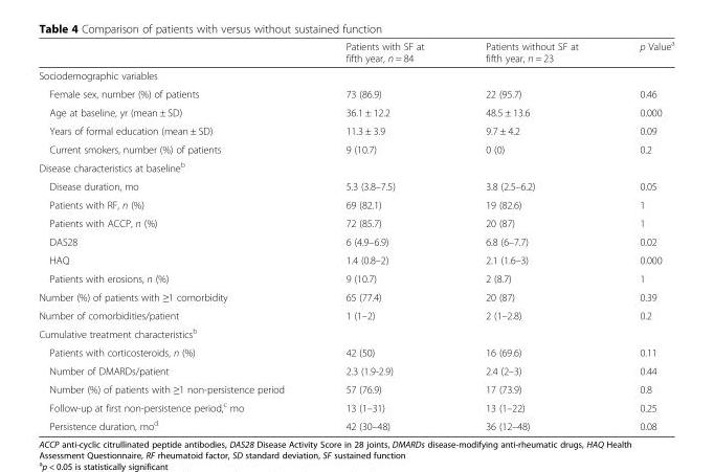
<table><thead><tr><td></td><td>Patients with SF at fifth year, n = 84</td><td>Patients without SF at fifth year, n = 23</td><td>p Value<sup>a</sup></td></tr></thead><tbody><tr><td colspan="4">Sociodemographic variables</td></tr><tr><td>Female sex, number (%) of patients</td><td>73 (86.9)</td><td>22 (95.7)</td><td>0.46</td></tr><tr><td>Age at baseline, yr (mean ± SD)</td><td>36.1 ± 12.2</td><td>48.5 ± 13.6</td><td>0.000</td></tr><tr><td>Years of formal education (mean ± SD)</td><td>11.3 ± 3.9</td><td>9.7 ± 4.2</td><td>0.09</td></tr><tr><td>Current smokers, number (%) of patients</td><td>9 (10.7)</td><td>0 (0)</td><td>0.2</td></tr><tr><td colspan="4">Disease characteristics at baseline<sup>b</sup></td></tr><tr><td>Disease duration, mo</td><td>5.3 (3.8–7.5)</td><td>3.8 (2.5–6.2)</td><td>0.05</td></tr><tr><td>Patients with RF, n (%)</td><td>69 (82.1)</td><td>19 (82.6)</td><td>1</td></tr><tr><td>Patients with ACCP, n (%)</td><td>72 (85.7)</td><td>20 (87)</td><td>1</td></tr><tr><td>DAS28</td><td>6 (4.9–6.9)</td><td>6.8 (6–7.7)</td><td>0.02</td></tr><tr><td>HAQ</td><td>1.4 (0.8–2)</td><td>2.1 (1.6–3)</td><td>0.000</td></tr><tr><td>Patients with erosions, n (%)</td><td>9 (10.7)</td><td>2 (8.7)</td><td>1</td></tr><tr><td>Number (%) of patients with ≥1 comorbidity</td><td>65 (77.4)</td><td>20 (87)</td><td>0.39</td></tr><tr><td>Number of comorbidities/patient</td><td>1 (1–2)</td><td>2 (1–2.8)</td><td>0.2</td></tr><tr><td colspan="4">Cumulative treatment characteristics<sup>b</sup></td></tr><tr><td>Patients with corticosteroids, n (%)</td><td>42 (50)</td><td>16 (69.6)</td><td>0.11</td></tr><tr><td>Number of DMARDs/patient</td><td>2.3 (1.9-2.9)</td><td>2.4 (2–3)</td><td>0.44</td></tr><tr><td>Number (%) of patients with ≥1 non-persistence period</td><td>57 (76.9)</td><td>17 (73.9)</td><td>0.8</td></tr><tr><td>Follow-up at first non-persistence period,<sup>c</sup> mo</td><td>13 (1–31)</td><td>13 (1–22)</td><td>0.25</td></tr><tr><td>Persistence duration, mo<sup>d</sup></td><td>42 (30–48)</td><td>36 (12–48)</td><td>0.08</td></tr></tbody></table>